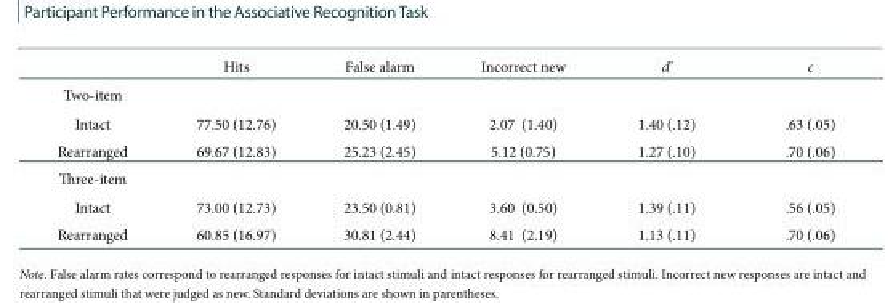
<table><thead><tr><td></td><td>Hits</td><td>False alarm</td><td>Incorrect new</td><td>d’</td><td>c</td></tr></thead><tbody><tr><td colspan="6">Two-item</td></tr><tr><td>Intact</td><td>77.50 (12.76)</td><td>20.50 (1.49)</td><td>2.07 (1.40)</td><td>1.40 (.12)</td><td>.63 (.05)</td></tr><tr><td>Rearranged</td><td>69.67 (12.83)</td><td>25.23 (2.45)</td><td>5.12 (0.75)</td><td>1.27 (.10)</td><td>.70 (.06)</td></tr><tr><td colspan="6">Three-item</td></tr><tr><td>Intact</td><td>73.00 (12.73)</td><td>23.50 (0.81)</td><td>3.60 (0.50)</td><td>1.39 (.11)</td><td>.56 (.05)</td></tr><tr><td>Rearranged</td><td>60.85 (16.97)</td><td>30.81 (2.44)</td><td>8.41 (2.19)</td><td>1.13 (.11)</td><td>.70 (.06)</td></tr></tbody></table>